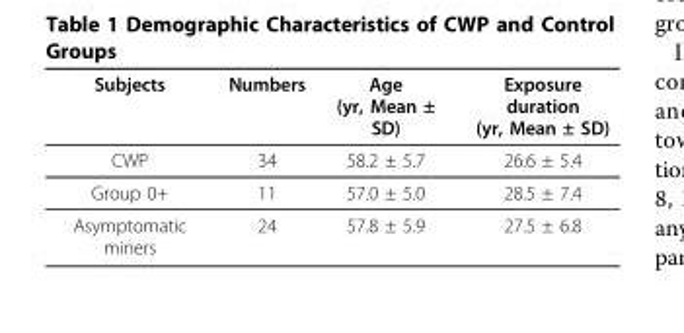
<table><thead><tr><td>Subjects</td><td>Numbers</td><td>Age (yr, Mean ± SD)</td><td>Exposure duration (yr, Mean ± SD)</td></tr></thead><tbody><tr><td>CWP</td><td>34</td><td>58.2 ± 5.7</td><td>26.6 ± 5.4</td></tr><tr><td>Group 0+</td><td>11</td><td>57.0 ± 5.0</td><td>28.5 ± 7.4</td></tr><tr><td>Asymptomatic miners</td><td>24</td><td>57.8 ± 5.9</td><td>27.5 ± 6.8</td></tr></tbody></table>